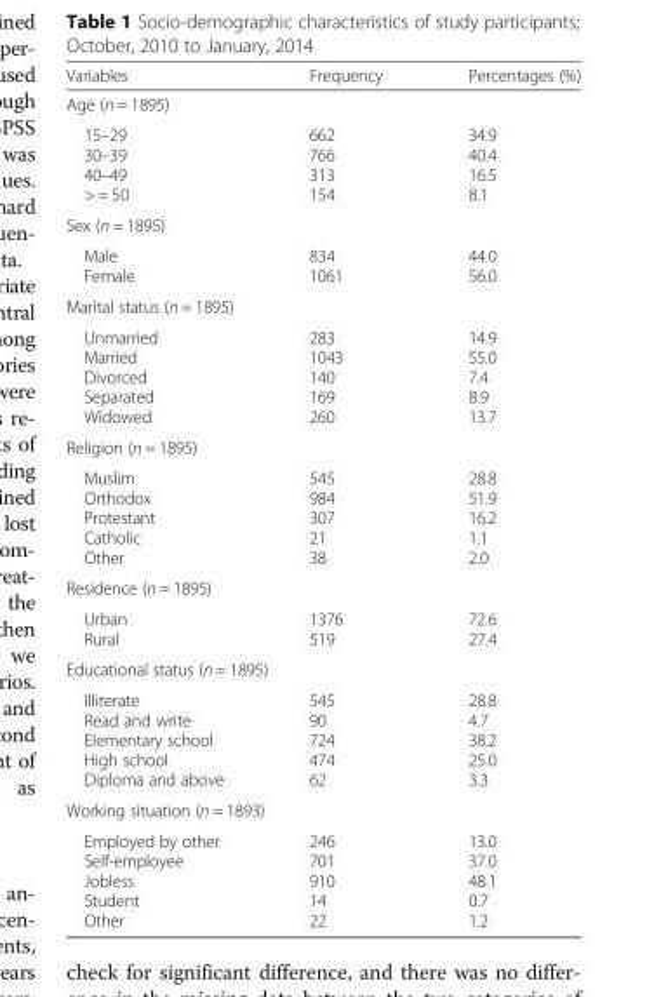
<table><thead><tr><td>Variables</td><td>Frequency</td><td>Percentages (%)</td></tr></thead><tbody><tr><td colspan="3">Age (n = 1895)</td></tr><tr><td>15–29 30–39 40–49 &gt; = 50</td><td>662 766 313 154</td><td>34.9 40.4 16.5 8.1</td></tr><tr><td colspan="3">Sex (n = 1895)</td></tr><tr><td>Male Female</td><td>834 1061</td><td>44.0 56.0</td></tr><tr><td colspan="3">Marital status (n = 1895)</td></tr><tr><td>Unmarried Married Divorced Separated Widowed</td><td>283 1043 140 169 260</td><td>14.9 55.0 7.4 8.9 13.7</td></tr><tr><td colspan="3">Religion (n = 1895)</td></tr><tr><td>Muslim Orthodox Protestant Catholic Other</td><td>545 984 307 21 38</td><td>28.8 51.9 16.2 1.1 2.0</td></tr><tr><td colspan="3">Residence (n = 1895)</td></tr><tr><td>Urban Rural</td><td>1376 519</td><td>72.6 27.4</td></tr><tr><td colspan="3">Educational status (n = 1895)</td></tr><tr><td>Illiterate Read and write Elementary school High school Diploma and above</td><td>545 90 724 474 62</td><td>28.8 4.7 38.2 25.0 3.3</td></tr><tr><td colspan="3">Working situation (n = 1893)</td></tr><tr><td>Employed by other Self-employee Jobless Student Other</td><td>246 701 910 14 22</td><td>13.0 37.0 48.1 0.7 1.2</td></tr></tbody></table>